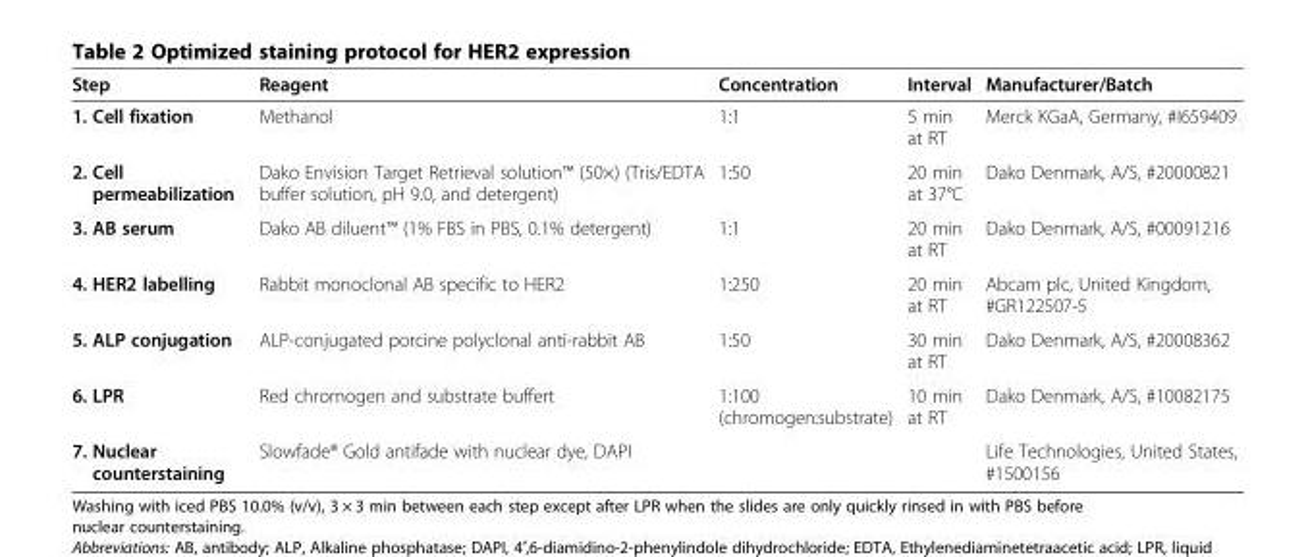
<table><thead><tr><td>Step</td><td>Reagent</td><td>Concentration</td><td>Interval</td><td>Manufacturer/Batch</td></tr></thead><tbody><tr><td>1. Cell fixation</td><td>Methanol</td><td>1:1</td><td>5 min at RT</td><td>Merck KGaA, Germany, #I659409</td></tr><tr><td>2. Cell permeabilization</td><td>Dako Envision Target Retrieval solution™ (50×) (Tris/EDTA buffer solution, pH 9.0, and detergent)</td><td>1:50</td><td>20 min at 37°C</td><td>Dako Denmark, A/S, #20000821</td></tr><tr><td>3. AB serum</td><td>Dako AB diluent™ (1% FBS in PBS, 0.1% detergent)</td><td>1:1</td><td>20 min at RT</td><td>Dako Denmark, A/S, #00091216</td></tr><tr><td>4. HER2 labelling</td><td>Rabbit monoclonal AB specific to HER2</td><td>1:250</td><td>20 min at RT</td><td>Abcam plc, United Kingdom, #GR122507-5</td></tr><tr><td>5. ALP conjugation</td><td>ALP-conjugated porcine polyclonal anti-rabbit AB</td><td>1:50</td><td>30 min at RT</td><td>Dako Denmark, A/S, #20008362</td></tr><tr><td>6. LPR</td><td>Red chromogen and substrate buffert</td><td>1:100 (chromogen:substrate)</td><td>10 min at RT</td><td>Dako Denmark, A/S, #10082175</td></tr><tr><td>7. Nuclear counterstaining</td><td>Slowfade® Gold antifade with nuclear dye, DAPI</td><td></td><td></td><td>Life Technologies, United States, #1500156</td></tr></tbody></table>